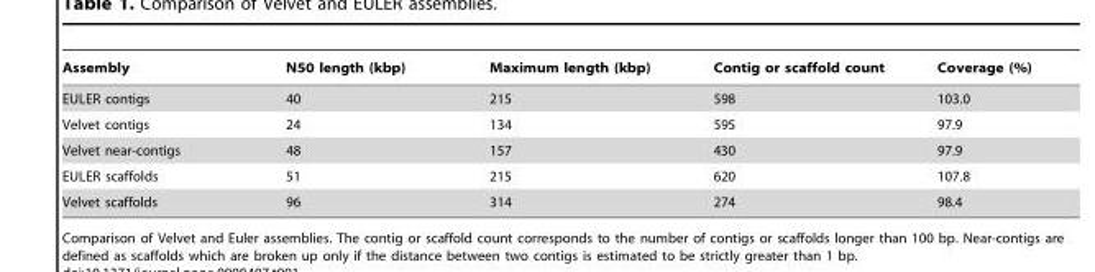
<table><thead><tr><td>Assembly</td><td>N50 length (kbp)</td><td>Maximum length (kbp)</td><td>Contig or scaffold count</td><td>Coverage (%)</td></tr></thead><tbody><tr><td>EULER contigs</td><td>40</td><td>215</td><td>598</td><td>103.0</td></tr><tr><td>Velvet contigs</td><td>24</td><td>134</td><td>595</td><td>97.9</td></tr><tr><td>Velvet near-contigs</td><td>48</td><td>157</td><td>430</td><td>97.9</td></tr><tr><td>EULER scaffolds</td><td>51</td><td>215</td><td>620</td><td>107.8</td></tr><tr><td>Velvet scaffolds</td><td>96</td><td>314</td><td>274</td><td>98.4</td></tr></tbody></table>